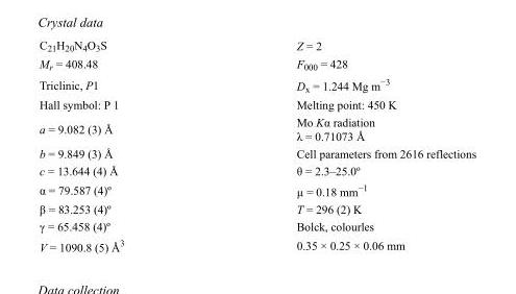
<table><tbody><tr><td>C<sub>21</sub>H<sub>20</sub>N<sub>4</sub>O<sub>3</sub>S</td><td>Z = 2</td></tr><tr><td>M<sub>r</sub> = 408.48</td><td>F000 = 428</td></tr><tr><td>Triclinic, P1</td><td>D<sub>x</sub> = 1.244 Mg m<sup>−3</sup></td></tr><tr><td>Hall symbol: P 1</td><td>Melting point: 450 K</td></tr><tr><td>a = 9.082 (3) Å</td><td>Mo Kα radiation λ = 0.71073 Å</td></tr><tr><td>b = 9.849 (3) Å</td><td>Cell parameters from 2616 reflections</td></tr><tr><td>c = 13.644 (4) Å</td><td>θ = 2.3–25.0º</td></tr><tr><td>α = 79.587 (4)º</td><td>µ = 0.18 mm<sup>−1</sup></td></tr><tr><td>β = 83.253 (4)º</td><td>T = 296 (2) K</td></tr><tr><td>γ = 65.458 (4)º</td><td>Bolck, colourles</td></tr><tr><td>V = 1090.8 (5) Å<sup>3</sup></td><td>0.35 × 0.25 × 0.06 mm</td></tr></tbody></table>